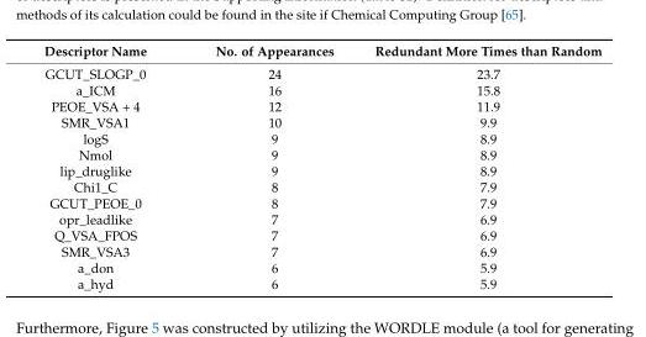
<table><thead><tr><td>Descriptor Name</td><td>No. of Appearances</td><td>Redundant More Times than Random</td></tr></thead><tbody><tr><td>GCUT_SLOGP_0</td><td>24</td><td>23.7</td></tr><tr><td>a_ICM</td><td>16</td><td>15.8</td></tr><tr><td>PEOE_VSA + 4</td><td>12</td><td>11.9</td></tr><tr><td>SMR_VSA1</td><td>10</td><td>9.9</td></tr><tr><td>logS</td><td>9</td><td>8.9</td></tr><tr><td>Nmol</td><td>9</td><td>8.9</td></tr><tr><td>lip_druglike</td><td>9</td><td>8.9</td></tr><tr><td>Chi1_C</td><td>8</td><td>7.9</td></tr><tr><td>GCUT_PEOE_0</td><td>8</td><td>7.9</td></tr><tr><td>opr_leadlike</td><td>7</td><td>6.9</td></tr><tr><td>Q_VSA_FPOS</td><td>7</td><td>6.9</td></tr><tr><td>SMR_VSA3</td><td>7</td><td>6.9</td></tr><tr><td>a_don</td><td>6</td><td>5.9</td></tr><tr><td>a_hyd</td><td>6</td><td>5.9</td></tr></tbody></table>